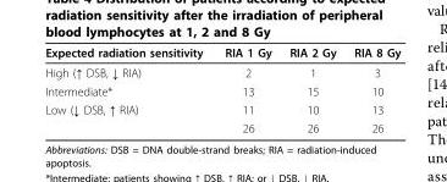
<table><thead><tr><td>Expected radiation sensitivity</td><td>RIA 1 Gy</td><td>RIA 2 Gy</td><td>RIA 8 Gy</td></tr></thead><tbody><tr><td>High (↑ DSB, ↓ RIA)</td><td>2</td><td>1</td><td>3</td></tr><tr><td>Intermediate*</td><td>13</td><td>15</td><td>10</td></tr><tr><td rowspan="2">Low (↓ DSB, ↑ RIA)</td><td>11</td><td>10</td><td>13</td></tr><tr><td>26</td><td>26</td><td>26</td></tr></tbody></table>